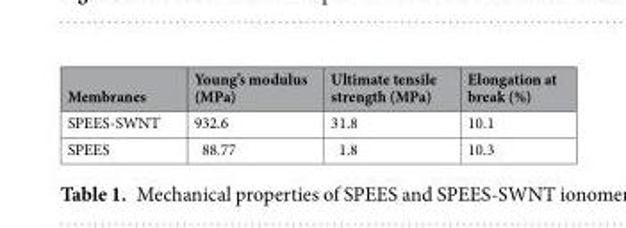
<table><thead><tr><td>Membranes</td><td>Young’s modulus (MPa)</td><td>Ultimate tensile strength (MPa)</td><td>Elongation at break (%)</td></tr></thead><tbody><tr><td>SPEES-SWNT</td><td>932.6</td><td>31.8</td><td>10.1</td></tr><tr><td>SPEES</td><td>88.77</td><td>1.8</td><td>10.3</td></tr></tbody></table>